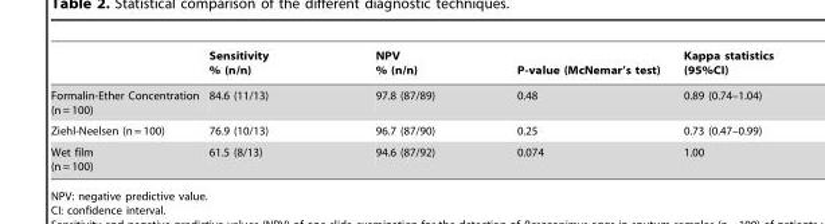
<table><thead><tr><td></td><td>Sensitivity % (n/n)</td><td>NPV % (n/n)</td><td>P-value (McNemar’s test)</td><td>Kappa statistics (95%CI)</td></tr></thead><tbody><tr><td>Formalin-Ether Concentration (n = 100)</td><td>84.6 (11/13)</td><td>97.8 (87/89)</td><td>0.48</td><td>0.89 (0.74–1.04)</td></tr><tr><td>Ziehl-Neelsen (n = 100)</td><td>76.9 (10/13)</td><td>96.7 (87/90)</td><td>0.25</td><td>0.73 (0.47–0.99)</td></tr><tr><td>Wet film (n = 100)</td><td>61.5 (8/13)</td><td>94.6 (87/92)</td><td>0.074</td><td>1.00</td></tr></tbody></table>